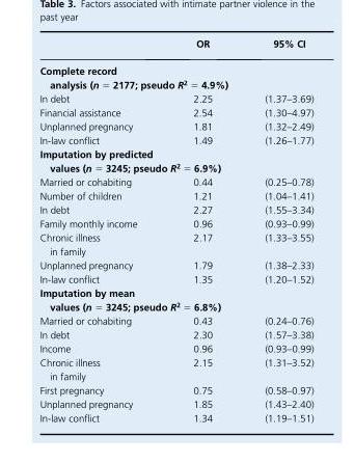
<table><thead><tr><td></td><td>OR</td><td>95% CI</td></tr></thead><tbody><tr><td colspan="3">Complete record analysis (n = 2177; pseudo R<sup>2</sup> = 4.9%)</td></tr><tr><td>In debt</td><td>2.25</td><td>(1.37–3.69)</td></tr><tr><td>Financial assistance</td><td>2.54</td><td>(1.30–4.97)</td></tr><tr><td>Unplanned pregnancy</td><td>1.81</td><td>(1.32–2.49)</td></tr><tr><td>In-law conflict</td><td>1.49</td><td>(1.26–1.77)</td></tr><tr><td colspan="3">Imputation by predicted values (n = 3245; pseudo R<sup>2</sup> = 6.9%)</td></tr><tr><td>Married or cohabiting</td><td>0.44</td><td>(0.25–0.78)</td></tr><tr><td>Number of children</td><td>1.21</td><td>(1.04–1.41)</td></tr><tr><td>In debt</td><td>2.27</td><td>(1.55–3.34)</td></tr><tr><td>Family monthly income</td><td>0.96</td><td>(0.93–0.99)</td></tr><tr><td>Chronic illness in family</td><td>2.17</td><td>(1.33–3.55)</td></tr><tr><td>Unplanned pregnancy</td><td>1.79</td><td>(1.38–2.33)</td></tr><tr><td>In-law conflict</td><td>1.35</td><td>(1.20–1.52)</td></tr><tr><td colspan="3">Imputation by mean values (n = 3245; pseudo R<sup>2</sup> = 6.8%)</td></tr><tr><td>Married or cohabiting</td><td>0.43</td><td>(0.24–0.76)</td></tr><tr><td>In debt</td><td>2.30</td><td>(1.57–3.38)</td></tr><tr><td>Income</td><td>0.96</td><td>(0.93–0.99)</td></tr><tr><td>Chronic illness in family</td><td>2.15</td><td>(1.31–3.52)</td></tr><tr><td>First pregnancy</td><td>0.75</td><td>(0.58–0.97)</td></tr><tr><td>Unplanned pregnancy</td><td>1.85</td><td>(1.43–2.40)</td></tr><tr><td>In-law conflict</td><td>1.34</td><td>(1.19–1.51)</td></tr></tbody></table>